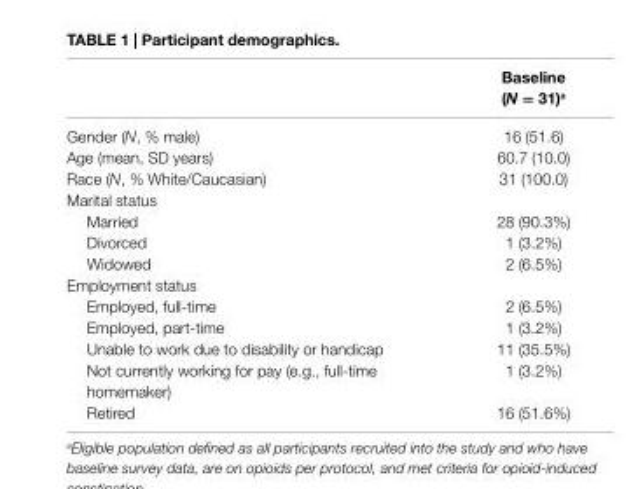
<table><thead><tr><td></td><td>Baseline (N = 31)<sup>a</sup></td></tr></thead><tbody><tr><td>Gender (N, % male)</td><td>16 (51.6)</td></tr><tr><td>Age (mean, SD years)</td><td>60.7 (10.0)</td></tr><tr><td>Race (N, % White/Caucasian)</td><td>31 (100.0)</td></tr><tr><td colspan="2">Marital status</td></tr><tr><td>Married</td><td>28 (90.3%)</td></tr><tr><td>Divorced</td><td>1 (3.2%)</td></tr><tr><td>Widowed</td><td>2 (6.5%)</td></tr><tr><td colspan="2">Employment status</td></tr><tr><td>Employed, full-time</td><td>2 (6.5%)</td></tr><tr><td>Employed, part-time</td><td>1 (3.2%)</td></tr><tr><td>Unable to work due to disability or handicap</td><td>11 (35.5%)</td></tr><tr><td>Not currently working for pay (e.g., full-time homemaker)</td><td>1 (3.2%)</td></tr><tr><td>Retired</td><td>16 (51.6%)</td></tr></tbody></table>